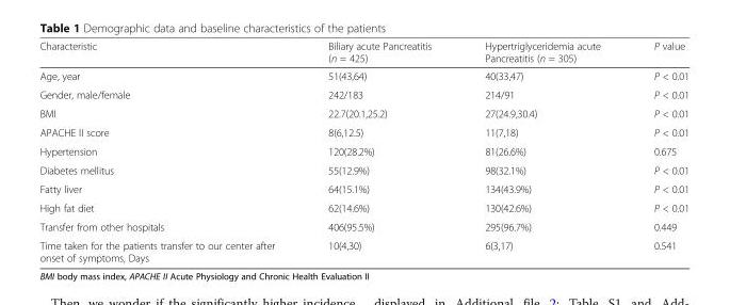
<table><thead><tr><td>Characteristic</td><td>Biliary acute Pancreatitis (n = 425)</td><td>Hypertriglyceridemia acute Pancreatitis (n = 305)</td><td>P value</td></tr></thead><tbody><tr><td>Age, year</td><td>51(43,64)</td><td>40(33,47)</td><td>P &lt; 0.01</td></tr><tr><td>Gender, male/female</td><td>242/183</td><td>214/91</td><td>P &lt; 0.01</td></tr><tr><td>BMI</td><td>22.7(20.1,25.2)</td><td>27(24.9,30.4)</td><td>P &lt; 0.01</td></tr><tr><td>APACHE II score</td><td>8(6,12.5)</td><td>11(7,18)</td><td>P &lt; 0.01</td></tr><tr><td>Hypertension</td><td>120(28.2%)</td><td>81(26.6%)</td><td>0.675</td></tr><tr><td>Diabetes mellitus</td><td>55(12.9%)</td><td>98(32.1%)</td><td>P &lt; 0.01</td></tr><tr><td>Fatty liver</td><td>64(15.1%)</td><td>134(43.9%)</td><td>P &lt; 0.01</td></tr><tr><td>High fat diet</td><td>62(14.6%)</td><td>130(42.6%)</td><td>P &lt; 0.01</td></tr><tr><td>Transfer from other hospitals</td><td>406(95.5%)</td><td>295(96.7%)</td><td>0.449</td></tr><tr><td>Time taken for the patients transfer to our center after onset of symptoms, Days</td><td>10(4,30)</td><td>6(3,17)</td><td>0.541</td></tr></tbody></table>